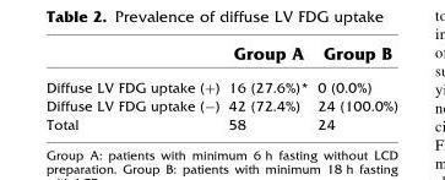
<table><thead><tr><td></td><td>Group A</td><td>Group B</td></tr></thead><tbody><tr><td>Diffuse LV FDG uptake (+)</td><td>16 (27.6%)*</td><td>0 (0.0%)</td></tr><tr><td>Diffuse LV FDG uptake (-)</td><td>42 (72.4%)</td><td>24 (100.0%)</td></tr><tr><td>Total</td><td>58</td><td>24</td></tr></tbody></table>